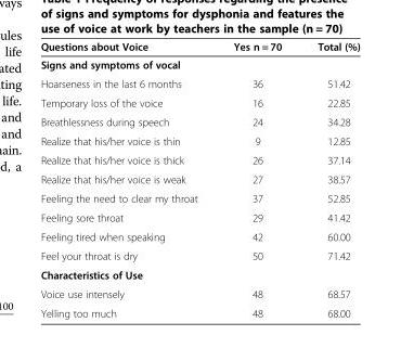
<table><thead><tr><td>Questions about Voice</td><td>Yes n = 70</td><td>Total (%)</td></tr></thead><tbody><tr><td colspan="3">Signs and symptoms of vocal</td></tr><tr><td>Hoarseness in the last 6 months</td><td>36</td><td>51.42</td></tr><tr><td>Temporary loss of the voice</td><td>16</td><td>22.85</td></tr><tr><td>Breathlessness during speech</td><td>24</td><td>34.28</td></tr><tr><td>Realize that his/her voice is thin</td><td>9</td><td>12.85</td></tr><tr><td>Realize that his/her voice is thick</td><td>26</td><td>37.14</td></tr><tr><td>Realize that his/her voice is weak</td><td>27</td><td>38.57</td></tr><tr><td>Feeling the need to clear my throat</td><td>37</td><td>52.85</td></tr><tr><td>Feeling sore throat</td><td>29</td><td>41.42</td></tr><tr><td>Feeling tired when speaking</td><td>42</td><td>60.00</td></tr><tr><td>Feel your throat is dry</td><td>50</td><td>71.42</td></tr><tr><td colspan="3">Characteristics of Use</td></tr><tr><td>Voice use intensely</td><td>48</td><td>68.57</td></tr><tr><td>Yelling too much</td><td>48</td><td>68.00</td></tr></tbody></table>